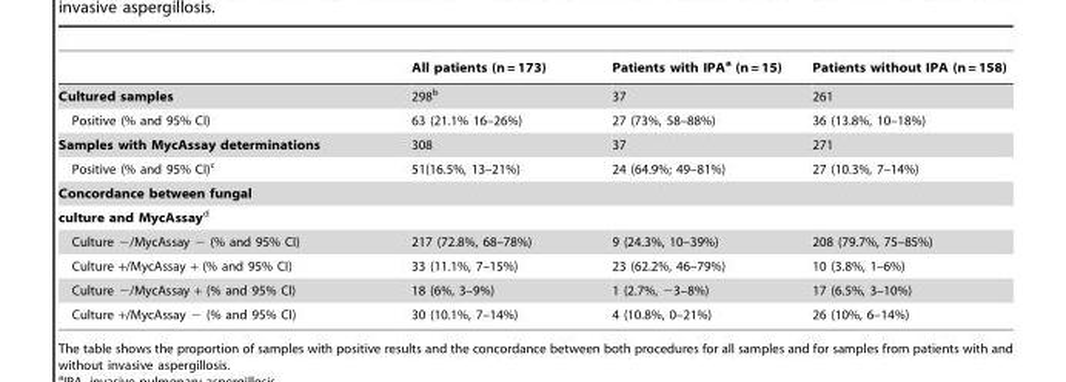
<table><thead><tr><td></td><td>All patients (n = 173)</td><td>Patients with IPA<sup>a</sup> (n = 15)</td><td>Patients without IPA (n = 158)</td></tr></thead><tbody><tr><td>Cultured samples</td><td>298<sup>b</sup></td><td>37</td><td>261</td></tr><tr><td>Positive (% and 95% CI)</td><td>63 (21.1% 16–26%)</td><td>27 (73%, 58–88%)</td><td>36 (13.8%, 10–18%)</td></tr><tr><td>Samples with MycAssay determinations</td><td>308</td><td>37</td><td>271</td></tr><tr><td>Positive (% and 95% CI)<sup>c</sup></td><td>51(16.5%, 13–21%)</td><td>24 (64.9%; 49–81%)</td><td>27 (10.3%, 7–14%)</td></tr><tr><td colspan="4">Concordance between fungal</td></tr><tr><td colspan="4">culture and MycAssayd</td></tr><tr><td>Culture −/MycAssay − (% and 95% CI)</td><td>217 (72.8%, 68–78%)</td><td>9 (24.3%, 10–39%)</td><td>208 (79.7%, 75–85%)</td></tr><tr><td>Culture +/MycAssay + (% and 95% CI)</td><td>33 (11.1%, 7–15%)</td><td>23 (62.2%, 46–79%)</td><td>10 (3.8%, 1–6%)</td></tr><tr><td>Culture −/MycAssay + (% and 95% CI)</td><td>18 (6%, 3–9%)</td><td>1 (2.7%, −3–8%)</td><td>17 (6.5%, 3–10%)</td></tr><tr><td>Culture +/MycAssay − (% and 95% CI)</td><td>30 (10.1%, 7–14%)</td><td>4 (10.8%, 0–21%)</td><td>26 (10%, 6–14%)</td></tr></tbody></table>